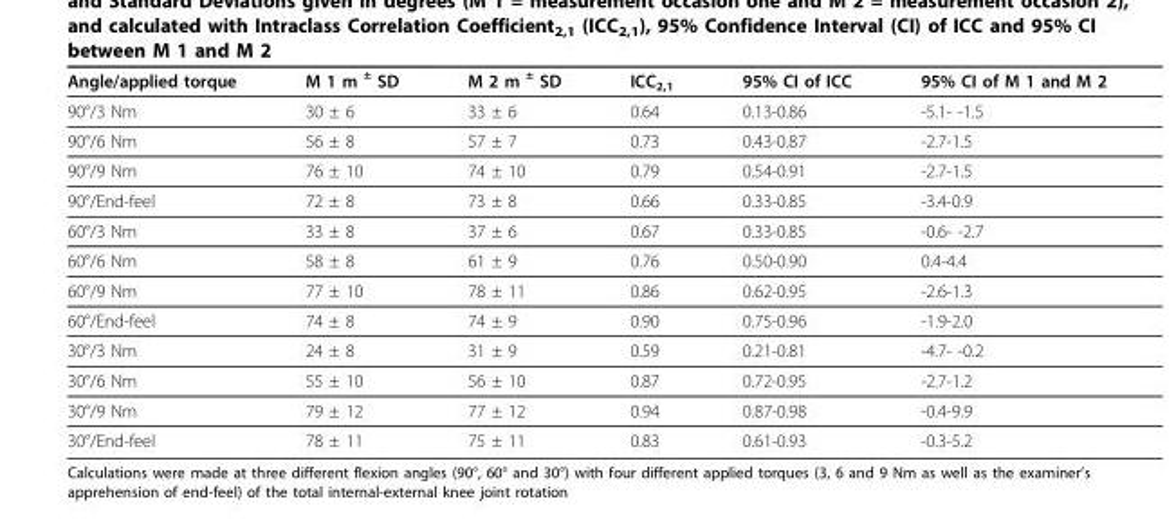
<table><thead><tr><td>Angle/applied torque</td><td>M 1 m <sup>±</sup> SD</td><td>M 2 m <sup>±</sup> SD</td><td>ICC<sub>2,1</sub></td><td>95% CI of ICC</td><td>95% CI of M 1 and M 2</td></tr></thead><tbody><tr><td>90°/3 Nm</td><td>30 ± 6</td><td>33 ± 6</td><td>0.64</td><td>0.13-0.86</td><td>-5.1- -1.5</td></tr><tr><td>90°/6 Nm</td><td>56 ± 8</td><td>57 ± 7</td><td>0.73</td><td>0.43-0.87</td><td>-2.7-1.5</td></tr><tr><td>90°/9 Nm</td><td>76 ± 10</td><td>74 ± 10</td><td>0.79</td><td>0.54-0.91</td><td>-2.7-1.5</td></tr><tr><td>90°/End-feel</td><td>72 ± 8</td><td>73 ± 8</td><td>0.66</td><td>0.33-0.85</td><td>-3.4-0.9</td></tr><tr><td>60°/3 Nm</td><td>33 ± 8</td><td>37 ± 6</td><td>0.67</td><td>0.33-0.85</td><td>-0.6- -2.7</td></tr><tr><td>60°/6 Nm</td><td>58 ± 8</td><td>61 ± 9</td><td>0.76</td><td>0.50-0.90</td><td>0.4-4.4</td></tr><tr><td>60°/9 Nm</td><td>77 ± 10</td><td>78 ± 11</td><td>0.86</td><td>0.62-0.95</td><td>-2.6-1.3</td></tr><tr><td>60°/End-feel</td><td>74 ± 8</td><td>74 ± 9</td><td>0.90</td><td>0.75-0.96</td><td>-1.9-2.0</td></tr><tr><td>30°/3 Nm</td><td>24 ± 8</td><td>31 ± 9</td><td>0.59</td><td>0.21-0.81</td><td>-4.7- -0.2</td></tr><tr><td>30°/6 Nm</td><td>55 ± 10</td><td>56 ± 10</td><td>0.87</td><td>0.72-0.95</td><td>-2.7-1.2</td></tr><tr><td>30°/9 Nm</td><td>79 ± 12</td><td>77 ± 12</td><td>0.94</td><td>0.87-0.98</td><td>-0.4-9.9</td></tr><tr><td>30°/End-feel</td><td>78 ± 11</td><td>75 ± 11</td><td>0.83</td><td>0.61-0.93</td><td>-0.3-5.2</td></tr></tbody></table>